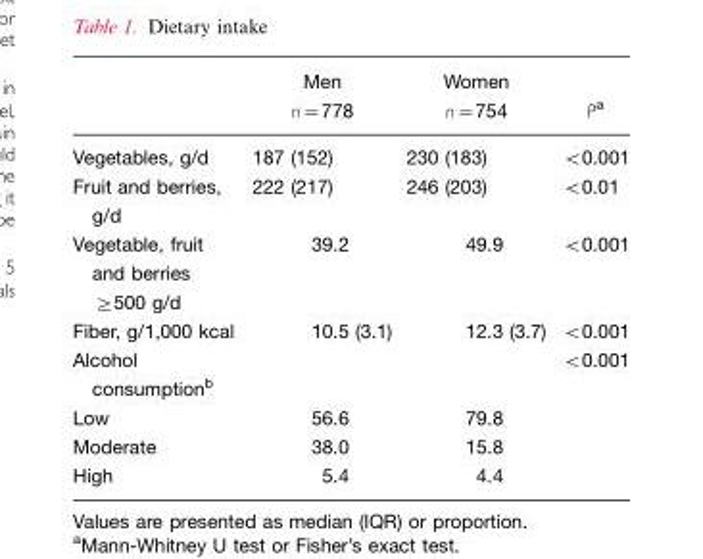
<table><thead><tr><td></td><td>Men n=778</td><td>Women n=754</td><td>P<sup>a</sup></td></tr></thead><tbody><tr><td>Vegetables, g/d</td><td>187 (152)</td><td>230 (183)</td><td>&lt;0.001</td></tr><tr><td>Fruit and berries, g/d</td><td>222 (217)</td><td>246 (203)</td><td>&lt;0.01</td></tr><tr><td>Vegetable, fruit and berries ≥500 g/d</td><td>39.2</td><td>49.9</td><td>&lt;0.001</td></tr><tr><td>Fiber, g/1,000 kcal</td><td>10.5 (3.1)</td><td>12.3 (3.7)</td><td>&lt;0.001</td></tr><tr><td>Alcohol consumption<sup>b</sup></td><td></td><td></td><td>&lt;0.001</td></tr><tr><td>Low</td><td>56.6</td><td>79.8</td><td></td></tr><tr><td>Moderate</td><td>38.0</td><td>15.8</td><td></td></tr><tr><td>High</td><td>5.4</td><td>4.4</td><td></td></tr></tbody></table>